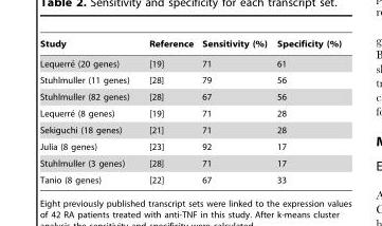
<table><thead><tr><td>Study</td><td>Reference</td><td>Sensitivity (%)</td><td>Specificity (%)</td></tr></thead><tbody><tr><td>Lequerre´ (20 genes)</td><td>[19]</td><td>71</td><td>61</td></tr><tr><td>Stuhlmuller (11 genes)</td><td>[28]</td><td>79</td><td>56</td></tr><tr><td>Stuhlmuller (82 genes)</td><td>[28]</td><td>67</td><td>56</td></tr><tr><td>Lequerre´ (8 genes)</td><td>[19]</td><td>71</td><td>28</td></tr><tr><td>Sekiguchi (18 genes)</td><td>[21]</td><td>71</td><td>28</td></tr><tr><td>Julia (8 genes)</td><td>[23]</td><td>92</td><td>17</td></tr><tr><td>Stuhlmuller (3 genes)</td><td>[28]</td><td>71</td><td>17</td></tr><tr><td>Tanio (8 genes)</td><td>[22]</td><td>67</td><td>33</td></tr></tbody></table>